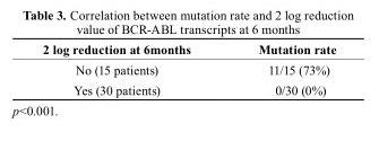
<table><thead><tr><td>2 log reduction at 6months</td><td>Mutation rate</td></tr></thead><tbody><tr><td>No (15 patients)</td><td>11/15 (73%)</td></tr><tr><td>Yes (30 patients)</td><td>0/30 (0%)</td></tr></tbody></table>